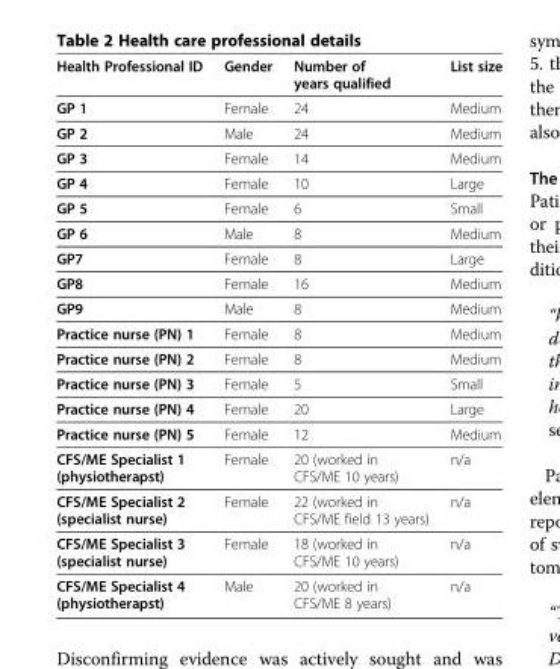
<table><thead><tr><td>Health Professional ID</td><td>Gender</td><td>Number of years qualified</td><td>List size</td></tr></thead><tbody><tr><td>GP 1</td><td>Female</td><td>24</td><td>Medium</td></tr><tr><td>GP 2</td><td>Male</td><td>24</td><td>Medium</td></tr><tr><td>GP 3</td><td>Female</td><td>14</td><td>Medium</td></tr><tr><td>GP 4</td><td>Female</td><td>10</td><td>Large</td></tr><tr><td>GP 5</td><td>Female</td><td>6</td><td>Small</td></tr><tr><td>GP 6</td><td>Male</td><td>8</td><td>Medium</td></tr><tr><td>GP7</td><td>Female</td><td>8</td><td>Large</td></tr><tr><td>GP8</td><td>Female</td><td>16</td><td>Medium</td></tr><tr><td>GP9</td><td>Male</td><td>8</td><td>Medium</td></tr><tr><td>Practice nurse (PN) 1</td><td>Female</td><td>8</td><td>Medium</td></tr><tr><td>Practice nurse (PN) 2</td><td>Female</td><td>8</td><td>Medium</td></tr><tr><td>Practice nurse (PN) 3</td><td>Female</td><td>5</td><td>Small</td></tr><tr><td>Practice nurse (PN) 4</td><td>Female</td><td>20</td><td>Large</td></tr><tr><td>Practice nurse (PN) 5</td><td>Female</td><td>12</td><td>Medium</td></tr><tr><td>CFS/ME Specialist 1 (physiotherapst)</td><td>Female</td><td>20 (worked in CFS/ME 10 years)</td><td>n/a</td></tr><tr><td>CFS/ME Specialist 2 (specialist nurse)</td><td>Female</td><td>22 (worked in CFS/ME field 13 years)</td><td>n/a</td></tr><tr><td>CFS/ME Specialist 3 (specialist nurse)</td><td>Female</td><td>18 (worked in CFS/ME 10 years)</td><td>n/a</td></tr><tr><td>CFS/ME Specialist 4 (physiotherapst)</td><td>Male</td><td>20 (worked in CFS/ME 8 years)</td><td>n/a</td></tr></tbody></table>